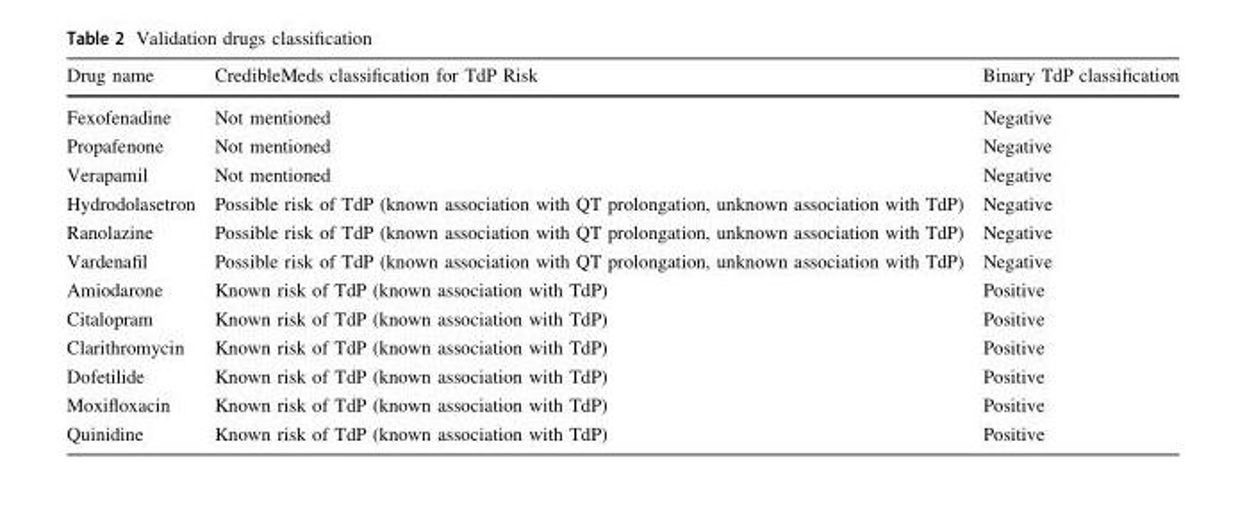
<table><thead><tr><td>Drug name</td><td>CredibleMeds classification for TdP Risk</td><td>Binary TdP classification</td></tr></thead><tbody><tr><td>Fexofenadine</td><td>Not mentioned</td><td>Negative</td></tr><tr><td>Propafenone</td><td>Not mentioned</td><td>Negative</td></tr><tr><td>Verapamil</td><td>Not mentioned</td><td>Negative</td></tr><tr><td>Hydrodolasetron</td><td>Possible risk of TdP (known association with QT prolongation, unknown association with TdP)</td><td>Negative</td></tr><tr><td>Ranolazine</td><td>Possible risk of TdP (known association with QT prolongation, unknown association with TdP)</td><td>Negative</td></tr><tr><td>Vardenafil</td><td>Possible risk of TdP (known association with QT prolongation, unknown association with TdP)</td><td>Negative</td></tr><tr><td>Amiodarone</td><td>Known risk of TdP (known association with TdP)</td><td>Positive</td></tr><tr><td>Citalopram</td><td>Known risk of TdP (known association with TdP)</td><td>Positive</td></tr><tr><td>Clarithromycin</td><td>Known risk of TdP (known association with TdP)</td><td>Positive</td></tr><tr><td>Dofetilide</td><td>Known risk of TdP (known association with TdP)</td><td>Positive</td></tr><tr><td>Moxifloxacin</td><td>Known risk of TdP (known association with TdP)</td><td>Positive</td></tr><tr><td>Quinidine</td><td>Known risk of TdP (known association with TdP)</td><td>Positive</td></tr></tbody></table>